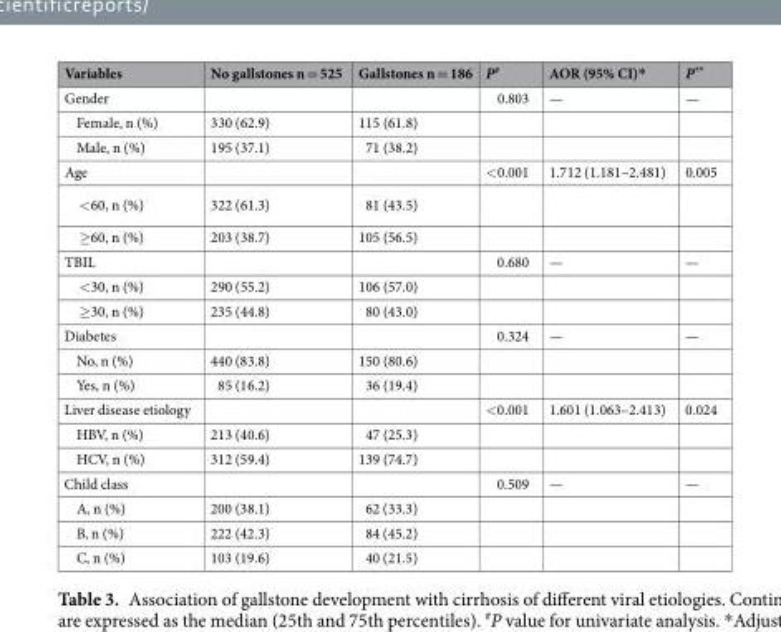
<table><thead><tr><td>Variables</td><td>No gallstones n = 525</td><td>Gallstones n = 186</td><td>P<sup>#</sup></td><td>AOR (95% CI)*</td><td>P**</td></tr></thead><tbody><tr><td>Gender</td><td></td><td></td><td>0.803</td><td>—</td><td>—</td></tr><tr><td>Female, n (%)</td><td>330 (62.9)</td><td>115 (61.8)</td><td></td><td></td><td></td></tr><tr><td>Male, n (%)</td><td>195 (37.1)</td><td>71 (38.2)</td><td></td><td></td><td></td></tr><tr><td>Age</td><td></td><td></td><td>&lt;0.001</td><td>1.712 (1.181–2.481)</td><td>0.005</td></tr><tr><td>&lt;60, n (%)</td><td>322 (61.3)</td><td>81 (43.5)</td><td></td><td></td><td></td></tr><tr><td>≥60, n (%)</td><td>203 (38.7)</td><td>105 (56.5)</td><td></td><td></td><td></td></tr><tr><td>TBIL</td><td></td><td></td><td>0.680</td><td>—</td><td>—</td></tr><tr><td>&lt;30, n (%)</td><td>290 (55.2)</td><td>106 (57.0)</td><td></td><td></td><td></td></tr><tr><td>≥30, n (%)</td><td>235 (44.8)</td><td>80 (43.0)</td><td></td><td></td><td></td></tr><tr><td>Diabetes</td><td></td><td></td><td>0.324</td><td>—</td><td>—</td></tr><tr><td>No, n (%)</td><td>440 (83.8)</td><td>150 (80.6)</td><td></td><td></td><td></td></tr><tr><td>Yes, n (%)</td><td>85 (16.2)</td><td>36 (19.4)</td><td></td><td></td><td></td></tr><tr><td>Liver disease etiology</td><td></td><td></td><td>&lt;0.001</td><td>1.601 (1.063–2.413)</td><td>0.024</td></tr><tr><td>HBV, n (%)</td><td>213 (40.6)</td><td>47 (25.3)</td><td></td><td></td><td></td></tr><tr><td>HCV, n (%)</td><td>312 (59.4)</td><td>139 (74.7)</td><td></td><td></td><td></td></tr><tr><td>Child class</td><td></td><td></td><td>0.509</td><td>—</td><td>—</td></tr><tr><td>A, n (%)</td><td>200 (38.1)</td><td>62 (33.3)</td><td></td><td></td><td></td></tr><tr><td>B, n (%)</td><td>222 (42.3)</td><td>84 (45.2)</td><td></td><td></td><td></td></tr><tr><td>C, n (%)</td><td>103 (19.6)</td><td>40 (21.5)</td><td></td><td></td><td></td></tr></tbody></table>